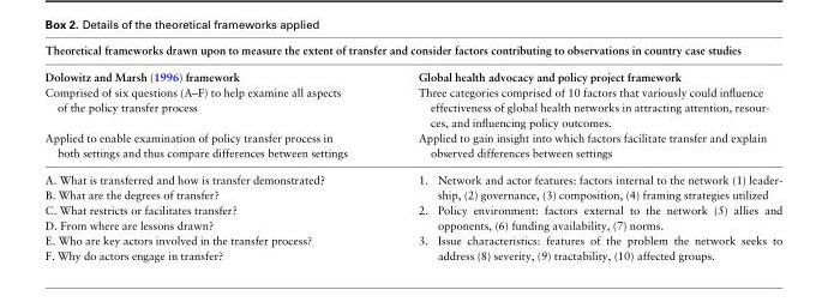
<table><tbody><tr><td colspan="2">Theoretical frameworks drawn upon to measure the extent of transfer and consider factors contributing to observations in country case studies</td></tr><tr><td>Dolowitz and Marsh (1996) framework</td><td>Global health advocacy and policy project framework</td></tr><tr><td>Comprised of six questions (A–F) to help examine all aspects of the policy transfer process</td><td>Three categories comprised of 10 factors that variously could influence effectiveness of global health networks in attracting attention, resour- ces, and influencing policy outcomes.</td></tr><tr><td>Applied to enable examination of policy transfer process in both settings and thus compare differences between settings</td><td>Applied to gain insight into which factors facilitate transfer and explain observed differences between settings</td></tr><tr><td>A. What is transferred and how is transfer demonstrated? B. What are the degrees of transfer? C. What restricts or facilitates transfer? D. From where are lessons drawn? E. Who are key actors involved in the transfer process? F. Why do actors engage in transfer?</td><td>1. Network and actor features: factors internal to the network (1) leader- ship, (2) governance, (3) composition, (4) framing strategies utilized 2. Policy environment: factors external to the network (5) allies and opponents, (6) funding availability, (7) norms. 3. Issue characteristics: features of the problem the network seeks to address (8) severity, (9) tractability, (10) affected groups.</td></tr></tbody></table>